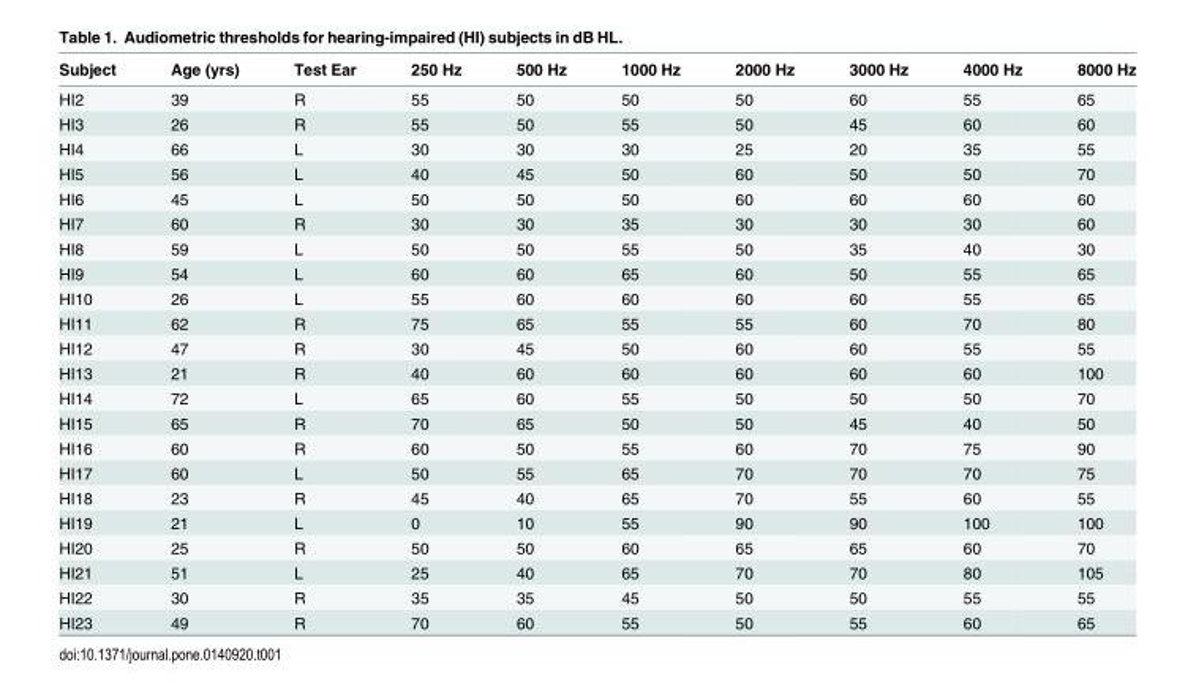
<table><thead><tr><td>Subject</td><td>Age (yrs)</td><td>Test Ear</td><td>250 Hz</td><td>500 Hz</td><td>1000 Hz</td><td>2000 Hz</td><td>3000 Hz</td><td>4000 Hz</td><td>8000 Hz</td></tr></thead><tbody><tr><td>HI2</td><td>39</td><td>R</td><td>55</td><td>50</td><td>50</td><td>50</td><td>60</td><td>55</td><td>65</td></tr><tr><td>HI3</td><td>26</td><td>R</td><td>55</td><td>50</td><td>55</td><td>50</td><td>45</td><td>60</td><td>60</td></tr><tr><td>HI4</td><td>66</td><td>L</td><td>30</td><td>30</td><td>30</td><td>25</td><td>20</td><td>35</td><td>55</td></tr><tr><td>HI5</td><td>56</td><td>L</td><td>40</td><td>45</td><td>50</td><td>60</td><td>50</td><td>50</td><td>70</td></tr><tr><td>HI6</td><td>45</td><td>L</td><td>50</td><td>50</td><td>50</td><td>60</td><td>60</td><td>60</td><td>60</td></tr><tr><td>HI7</td><td>60</td><td>R</td><td>30</td><td>30</td><td>35</td><td>30</td><td>30</td><td>30</td><td>60</td></tr><tr><td>HI8</td><td>59</td><td>L</td><td>50</td><td>50</td><td>55</td><td>50</td><td>35</td><td>40</td><td>30</td></tr><tr><td>HI9</td><td>54</td><td>L</td><td>60</td><td>60</td><td>65</td><td>60</td><td>50</td><td>55</td><td>65</td></tr><tr><td>HI10</td><td>26</td><td>L</td><td>55</td><td>60</td><td>60</td><td>60</td><td>60</td><td>55</td><td>65</td></tr><tr><td>HI11</td><td>62</td><td>R</td><td>75</td><td>65</td><td>55</td><td>55</td><td>60</td><td>70</td><td>80</td></tr><tr><td>HI12</td><td>47</td><td>R</td><td>30</td><td>45</td><td>50</td><td>60</td><td>60</td><td>55</td><td>55</td></tr><tr><td>HI13</td><td>21</td><td>R</td><td>40</td><td>60</td><td>60</td><td>60</td><td>60</td><td>60</td><td>100</td></tr><tr><td>HI14</td><td>72</td><td>L</td><td>65</td><td>60</td><td>55</td><td>50</td><td>50</td><td>50</td><td>70</td></tr><tr><td>HI15</td><td>65</td><td>R</td><td>70</td><td>65</td><td>50</td><td>50</td><td>45</td><td>40</td><td>50</td></tr><tr><td>HI16</td><td>60</td><td>R</td><td>60</td><td>50</td><td>55</td><td>60</td><td>70</td><td>75</td><td>90</td></tr><tr><td>HI17</td><td>60</td><td>L</td><td>50</td><td>55</td><td>65</td><td>70</td><td>70</td><td>70</td><td>75</td></tr><tr><td>HI18</td><td>23</td><td>R</td><td>45</td><td>40</td><td>65</td><td>70</td><td>55</td><td>60</td><td>55</td></tr><tr><td>HI19</td><td>21</td><td>L</td><td>0</td><td>10</td><td>55</td><td>90</td><td>90</td><td>100</td><td>100</td></tr><tr><td>HI20</td><td>25</td><td>R</td><td>50</td><td>50</td><td>60</td><td>65</td><td>65</td><td>60</td><td>70</td></tr><tr><td>HI21</td><td>51</td><td>L</td><td>25</td><td>40</td><td>65</td><td>70</td><td>70</td><td>80</td><td>105</td></tr><tr><td>HI22</td><td>30</td><td>R</td><td>35</td><td>35</td><td>45</td><td>50</td><td>50</td><td>55</td><td>55</td></tr><tr><td>HI23</td><td>49</td><td>R</td><td>70</td><td>60</td><td>55</td><td>50</td><td>55</td><td>60</td><td>65</td></tr></tbody></table>